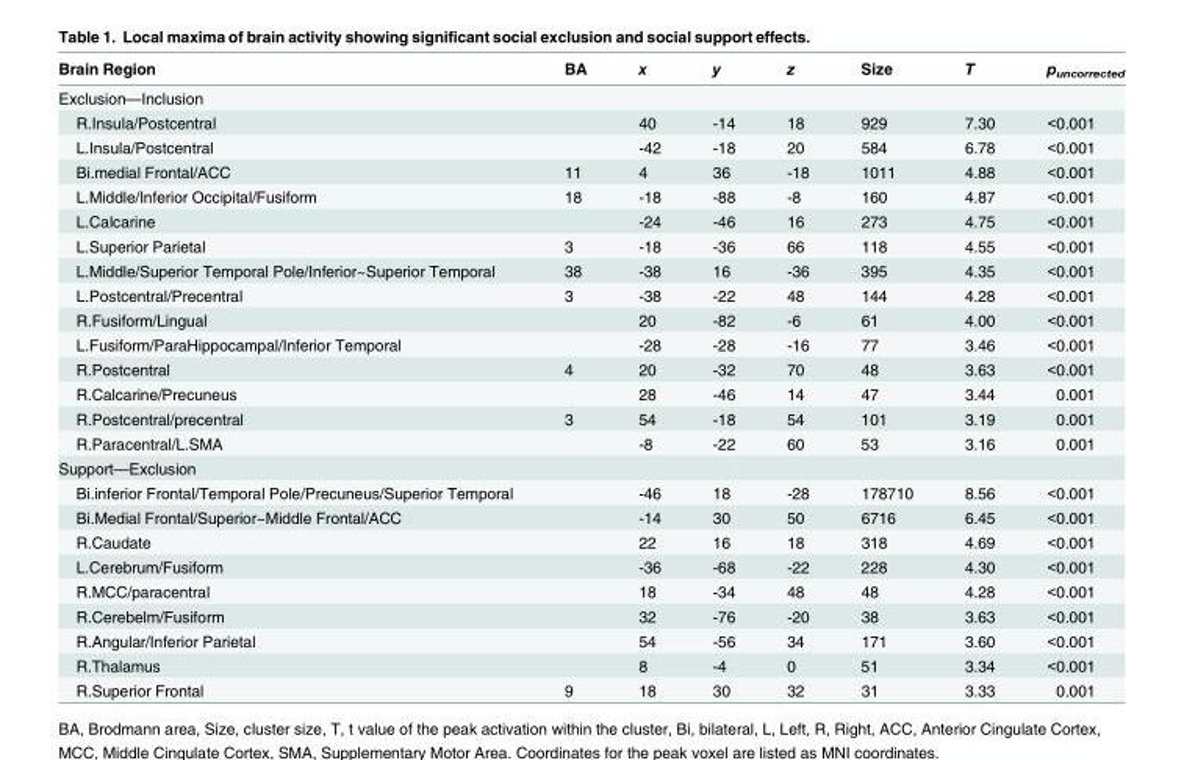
<table><thead><tr><td>Brain Region</td><td>BA</td><td>x</td><td>y</td><td>z</td><td>Size</td><td>T</td><td>p<sub>uncorrected</sub></td></tr></thead><tbody><tr><td colspan="8">Exclusion—Inclusion</td></tr><tr><td>R.Insula/Postcentral</td><td></td><td>40</td><td>-14</td><td>18</td><td>929</td><td>7.30</td><td>&lt;0.001</td></tr><tr><td>L.Insula/Postcentral</td><td></td><td>-42</td><td>-18</td><td>20</td><td>584</td><td>6.78</td><td>&lt;0.001</td></tr><tr><td>Bi.medial Frontal/ACC</td><td>11</td><td>4</td><td>36</td><td>-18</td><td>1011</td><td>4.88</td><td>&lt;0.001</td></tr><tr><td>L.Middle/Inferior Occipital/Fusiform</td><td>18</td><td>-18</td><td>-88</td><td>-8</td><td>160</td><td>4.87</td><td>&lt;0.001</td></tr><tr><td>L.Calcarine</td><td></td><td>-24</td><td>-46</td><td>16</td><td>273</td><td>4.75</td><td>&lt;0.001</td></tr><tr><td>L.Superior Parietal</td><td>3</td><td>-18</td><td>-36</td><td>66</td><td>118</td><td>4.55</td><td>&lt;0.001</td></tr><tr><td>L.Middle/Superior Temporal Pole/Inferior~Superior Temporal</td><td>38</td><td>-38</td><td>16</td><td>-36</td><td>395</td><td>4.35</td><td>&lt;0.001</td></tr><tr><td>L.Postcentral/Precentral</td><td>3</td><td>-38</td><td>-22</td><td>48</td><td>144</td><td>4.28</td><td>&lt;0.001</td></tr><tr><td>R.Fusiform/Lingual</td><td></td><td>20</td><td>-82</td><td>-6</td><td>61</td><td>4.00</td><td>&lt;0.001</td></tr><tr><td>L.Fusiform/ParaHippocampal/Inferior Temporal</td><td></td><td>-28</td><td>-28</td><td>-16</td><td>77</td><td>3.46</td><td>&lt;0.001</td></tr><tr><td>R.Postcentral</td><td>4</td><td>20</td><td>-32</td><td>70</td><td>48</td><td>3.63</td><td>&lt;0.001</td></tr><tr><td>R.Calcarine/Precuneus</td><td></td><td>28</td><td>-46</td><td>14</td><td>47</td><td>3.44</td><td>0.001</td></tr><tr><td>R.Postcentral/precentral</td><td>3</td><td>54</td><td>-18</td><td>54</td><td>101</td><td>3.19</td><td>0.001</td></tr><tr><td>R.Paracentral/L.SMA</td><td></td><td>-8</td><td>-22</td><td>60</td><td>53</td><td>3.16</td><td>0.001</td></tr><tr><td colspan="8">Support—Exclusion</td></tr><tr><td>Bi.inferior Frontal/Temporal Pole/Precuneus/Superior Temporal</td><td></td><td>-46</td><td>18</td><td>-28</td><td>178710</td><td>8.56</td><td>&lt;0.001</td></tr><tr><td>Bi.Medial Frontal/Superior~Middle Frontal/ACC</td><td></td><td>-14</td><td>30</td><td>50</td><td>6716</td><td>6.45</td><td>&lt;0.001</td></tr><tr><td>R.Caudate</td><td></td><td>22</td><td>16</td><td>18</td><td>318</td><td>4.69</td><td>&lt;0.001</td></tr><tr><td>L.Cerebrum/Fusiform</td><td></td><td>-36</td><td>-68</td><td>-22</td><td>228</td><td>4.30</td><td>&lt;0.001</td></tr><tr><td>R.MCC/paracentral</td><td></td><td>18</td><td>-34</td><td>48</td><td>48</td><td>4.28</td><td>&lt;0.001</td></tr><tr><td>R.Cerebelm/Fusiform</td><td></td><td>32</td><td>-76</td><td>-20</td><td>38</td><td>3.63</td><td>&lt;0.001</td></tr><tr><td>R.Angular/Inferior Parietal</td><td></td><td>54</td><td>-56</td><td>34</td><td>171</td><td>3.60</td><td>&lt;0.001</td></tr><tr><td>R.Thalamus</td><td></td><td>8</td><td>-4</td><td>0</td><td>51</td><td>3.34</td><td>&lt;0.001</td></tr><tr><td>R.Superior Frontal</td><td>9</td><td>18</td><td>30</td><td>32</td><td>31</td><td>3.33</td><td>0.001</td></tr></tbody></table>